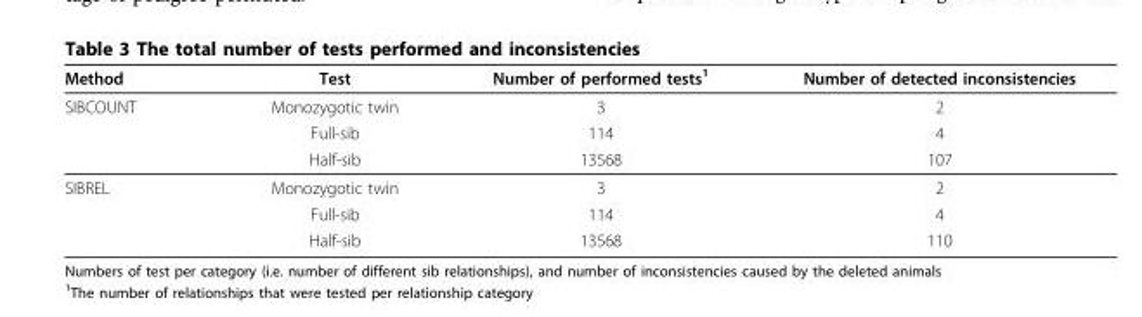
<table><thead><tr><td>Method</td><td>Test</td><td>Number of performed tests<sup>1</sup></td><td>Number of detected inconsistencies</td></tr></thead><tbody><tr><td rowspan="3">SIBCOUNT</td><td>Monozygotic twin</td><td>3</td><td>2</td></tr><tr><td>Full-sib</td><td>114</td><td>4</td></tr><tr><td>Half-sib</td><td>13568</td><td>107</td></tr><tr><td rowspan="3">SIBREL</td><td>Monozygotic twin</td><td>3</td><td>2</td></tr><tr><td>Full-sib</td><td>114</td><td>4</td></tr><tr><td>Half-sib</td><td>13568</td><td>110</td></tr></tbody></table>